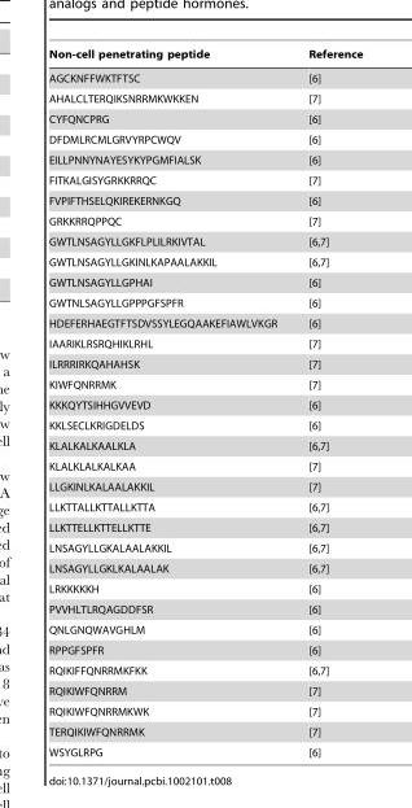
<table><thead><tr><td>Non-cell penetrating peptide</td><td>Reference</td></tr></thead><tbody><tr><td>AGCKNFFWKTFTSC</td><td>[6]</td></tr><tr><td>AHALCLTERQIKSNRRMKWKKEN</td><td>[7]</td></tr><tr><td>CYFQNCPRG</td><td>[6]</td></tr><tr><td>DFDMLRCMLGRVYRPCWQV</td><td>[6]</td></tr><tr><td>EILLPNNYNAYESYKYPGMFIALSK</td><td>[6]</td></tr><tr><td>FITKALGISYGRKKRRQC</td><td>[7]</td></tr><tr><td>FVPIFTHSELQKIREKERNKGQ</td><td>[6]</td></tr><tr><td>GRKKRRQPPQC</td><td>[7]</td></tr><tr><td>GWTLNSAGYLLGKFLPLILRKIVTAL</td><td>[6,7]</td></tr><tr><td>GWTLNSAGYLLGKINLKAPAALAKKIL</td><td>[6,7]</td></tr><tr><td>GWTLNSAGYLLGPHAI</td><td>[6]</td></tr><tr><td>GWTNLSAGYLLGPPPGFSPFR</td><td>[6]</td></tr><tr><td>HDEFERHAEGTFTSDVSSYLEGQAAKEFIAWLVKGR</td><td>[6]</td></tr><tr><td>IAARIKLRSRQHIKLRHL</td><td>[7]</td></tr><tr><td>ILRRRIRKQAHAHSK</td><td>[7]</td></tr><tr><td>KIWFQNRRMK</td><td>[7]</td></tr><tr><td>KKKQYTSIHHGVVEVD</td><td>[6]</td></tr><tr><td>KKLSECLKRIGDELDS</td><td>[6]</td></tr><tr><td>KLALKALKAALKLA</td><td>[6,7]</td></tr><tr><td>KLALKLALKALKAA</td><td>[7]</td></tr><tr><td>LLGKINLKALAALAKKIL</td><td>[7]</td></tr><tr><td>LLKTTALLKTTALLKTTA</td><td>[6,7]</td></tr><tr><td>LLKTTELLKTTELLKTTE</td><td>[6,7]</td></tr><tr><td>LNSAGYLLGKALAALAKKIL</td><td>[6,7]</td></tr><tr><td>LNSAGYLLGKLKALAALAK</td><td>[6,7]</td></tr><tr><td>LRKKKKKH</td><td>[6]</td></tr><tr><td>PVVHLTLRQAGDDFSR</td><td>[6]</td></tr><tr><td>QNLGNQWAVGHLM</td><td>[6]</td></tr><tr><td>RPPGFSPFR</td><td>[6]</td></tr><tr><td>RQIKIFFQNRRMKFKK</td><td>[6,7]</td></tr><tr><td>RQIKIWFQNRRM</td><td>[7]</td></tr><tr><td>RQIKIWFQNRRMKWK</td><td>[7]</td></tr><tr><td>TERQIKIWFQNRRMK</td><td>[7]</td></tr><tr><td>WSYGLRPG</td><td>[6]</td></tr></tbody></table>